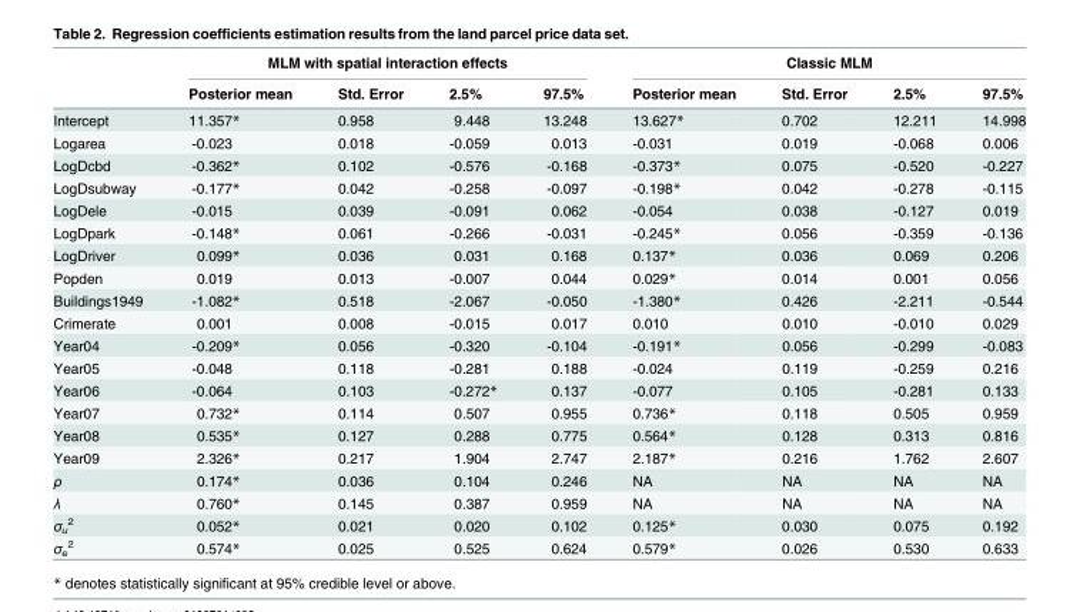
<table><thead><tr><td rowspan="2"></td><td colspan="4">MLM with spatial interaction effects</td><td colspan="4">Classic MLM</td></tr><tr><td>Posterior mean</td><td>Std. Error</td><td>2.5%</td><td>97.5%</td><td>Posterior mean</td><td>Std. Error</td><td>2.5%</td><td>97.5%</td></tr></thead><tbody><tr><td>Intercept</td><td>11.357*</td><td>0.958</td><td>9.448</td><td>13.248</td><td>13.627*</td><td>0.702</td><td>12.211</td><td>14.998</td></tr><tr><td>Logarea</td><td>-0.023</td><td>0.018</td><td>-0.059</td><td>0.013</td><td>-0.031</td><td>0.019</td><td>-0.068</td><td>0.006</td></tr><tr><td>LogDcbd</td><td>-0.362*</td><td>0.102</td><td>-0.576</td><td>-0.168</td><td>-0.373*</td><td>0.075</td><td>-0.520</td><td>-0.227</td></tr><tr><td>LogDsubway</td><td>-0.177*</td><td>0.042</td><td>-0.258</td><td>-0.097</td><td>-0.198*</td><td>0.042</td><td>-0.278</td><td>-0.115</td></tr><tr><td>LogDele</td><td>-0.015</td><td>0.039</td><td>-0.091</td><td>0.062</td><td>-0.054</td><td>0.038</td><td>-0.127</td><td>0.019</td></tr><tr><td>LogDpark</td><td>-0.148*</td><td>0.061</td><td>-0.266</td><td>-0.031</td><td>-0.245*</td><td>0.056</td><td>-0.359</td><td>-0.136</td></tr><tr><td>LogDriver</td><td>0.099*</td><td>0.036</td><td>0.031</td><td>0.168</td><td>0.137*</td><td>0.036</td><td>0.069</td><td>0.206</td></tr><tr><td>Popden</td><td>0.019</td><td>0.013</td><td>-0.007</td><td>0.044</td><td>0.029*</td><td>0.014</td><td>0.001</td><td>0.056</td></tr><tr><td>Buildings1949</td><td>-1.082*</td><td>0.518</td><td>-2.067</td><td>-0.050</td><td>-1.380*</td><td>0.426</td><td>-2.211</td><td>-0.544</td></tr><tr><td>Crimerate</td><td>0.001</td><td>0.008</td><td>-0.015</td><td>0.017</td><td>0.010</td><td>0.010</td><td>-0.010</td><td>0.029</td></tr><tr><td>Year04</td><td>-0.209*</td><td>0.056</td><td>-0.320</td><td>-0.104</td><td>-0.191*</td><td>0.056</td><td>-0.299</td><td>-0.083</td></tr><tr><td>Year05</td><td>-0.048</td><td>0.118</td><td>-0.281</td><td>0.188</td><td>-0.024</td><td>0.119</td><td>-0.259</td><td>0.216</td></tr><tr><td>Year06</td><td>-0.064</td><td>0.103</td><td>-0.272*</td><td>0.137</td><td>-0.077</td><td>0.105</td><td>-0.281</td><td>0.133</td></tr><tr><td>Year07</td><td>0.732*</td><td>0.114</td><td>0.507</td><td>0.955</td><td>0.736*</td><td>0.118</td><td>0.505</td><td>0.959</td></tr><tr><td>Year08</td><td>0.535*</td><td>0.127</td><td>0.288</td><td>0.775</td><td>0.564*</td><td>0.128</td><td>0.313</td><td>0.816</td></tr><tr><td>Year09</td><td>2.326*</td><td>0.217</td><td>1.904</td><td>2.747</td><td>2.187*</td><td>0.216</td><td>1.762</td><td>2.607</td></tr><tr><td>ρ</td><td>0.174*</td><td>0.036</td><td>0.104</td><td>0.246</td><td>NA</td><td>NA</td><td>NA</td><td>NA</td></tr><tr><td>λ</td><td>0.760*</td><td>0.145</td><td>0.387</td><td>0.959</td><td>NA</td><td>NA</td><td>NA</td><td>NA</td></tr><tr><td>σ<sub>u</sub> <sup>2</sup></td><td>0.052*</td><td>0.021</td><td>0.020</td><td>0.102</td><td>0.125*</td><td>0.030</td><td>0.075</td><td>0.192</td></tr><tr><td>σ<sub>e</sub> <sup>2</sup></td><td>0.574*</td><td>0.025</td><td>0.525</td><td>0.624</td><td>0.579*</td><td>0.026</td><td>0.530</td><td>0.633</td></tr></tbody></table>